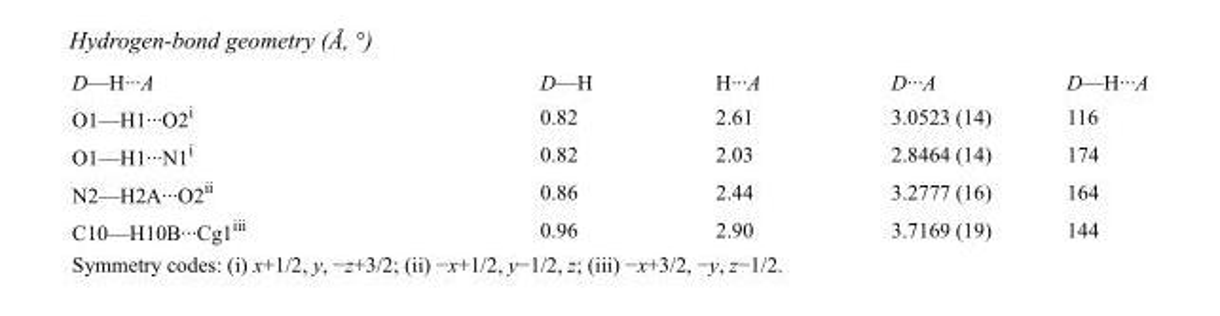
<table><tbody><tr><td>D—H···A</td><td>D—H</td><td>H···A</td><td>D···A</td><td>D—H···A</td></tr><tr><td>O1—H1···O2<sup>i</sup></td><td>0.82</td><td>2.61</td><td>3.0523 (14)</td><td>116</td></tr><tr><td>O1—H1···N1<sup>i</sup></td><td>0.82</td><td>2.03</td><td>2.8464 (14)</td><td>174</td></tr><tr><td>N2—H2A···O2<sup>ii</sup></td><td>0.86</td><td>2.44</td><td>3.2777 (16)</td><td>164</td></tr><tr><td>C10—H10B···Cg1<sup>iii</sup></td><td>0.96</td><td>2.90</td><td>3.7169 (19)</td><td>144</td></tr></tbody></table>